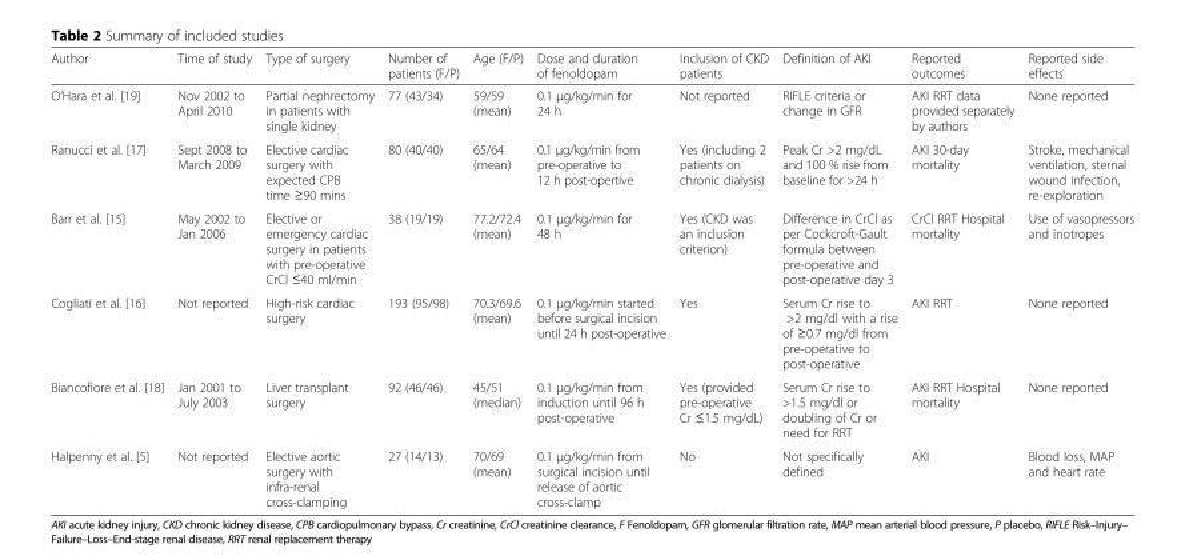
<table><thead><tr><td>Author</td><td>Time of study</td><td>Type of surgery</td><td>Number of patients (F/P)</td><td>Age (F/P)</td><td>Dose and duration of fenoldopam</td><td>Inclusion of CKD patients</td><td>Definition of AKI</td><td>Reported outcomes</td><td>Reported side effects</td></tr></thead><tbody><tr><td>O’Hara et al. [19]</td><td>Nov 2002 to April 2010</td><td>Partial nephrectomy in patients with single kidney</td><td>77 (43/34)</td><td>59/59 (mean)</td><td>0.1 μg/kg/min for 24 h</td><td>Not reported</td><td>RIFLE criteria or change in GFR</td><td>AKI RRT data provided separately by authors</td><td>None reported</td></tr><tr><td>Ranucci et al. [17]</td><td>Sept 2008 to March 2009</td><td>Elective cardiac surgery with expected CPB time ≥90 mins</td><td>80 (40/40)</td><td>65/64 (mean)</td><td>0.1 μg/kg/min from pre-operative to 12 h post-opertive</td><td>Yes (including 2 patients on chronic dialysis)</td><td>Peak Cr &gt;2 mg/dL and 100 % rise from baseline for &gt;24 h</td><td>AKI 30-day mortality</td><td>Stroke, mechanical ventilation, sternal wound infection, re-exploration</td></tr><tr><td>Barr et al. [15]</td><td>May 2002 to Jan 2006</td><td>Elective or emergency cardiac surgery in patients with pre-operative CrCl ≤40 ml/min</td><td>38 (19/19)</td><td>77.2/72.4 (mean)</td><td>0.1 μg/kg/min for 48 h</td><td>Yes (CKD was an inclusion criterion)</td><td>Difference in CrCl as per Cockcroft-Gault formula between pre-operative and post-operative day 3</td><td>CrCl RRT Hospital mortality</td><td>Use of vasopressors and inotropes</td></tr><tr><td>Cogliati et al. [16]</td><td>Not reported</td><td>High-risk cardiac surgery</td><td>193 (95/98)</td><td>70.3/69.6 (mean)</td><td>0.1 μg/kg/min started before surgical incision until 24 h post-operative</td><td>Yes</td><td>Serum Cr rise to &gt;2 mg/dl with a rise of ≥0.7 mg/dl from pre-operative to post-operative</td><td>AKI RRT</td><td>None reported</td></tr><tr><td>Biancofiore et al. [18]</td><td>Jan 2001 to July 2003</td><td>Liver transplant surgery</td><td>92 (46/46)</td><td>45/51 (median)</td><td>0.1 μg/kg/min from induction until 96 h post-operative</td><td>Yes (provided pre-operative Cr ≤1.5 mg/dL)</td><td>Serum Cr rise to &gt;1.5 mg/dl or doubling of Cr or need for RRT</td><td>AKI RRT Hospital mortality</td><td>None reported</td></tr><tr><td>Halpenny et al. [5]</td><td>Not reported</td><td>Elective aortic surgery with infra-renal cross-clamping</td><td>27 (14/13)</td><td>70/69 (mean)</td><td>0.1 μg/kg/min from surgical incision until release of aortic cross-clamp</td><td>No</td><td>Not specifically defined</td><td>AKI</td><td>Blood loss, MAP and heart rate</td></tr></tbody></table>